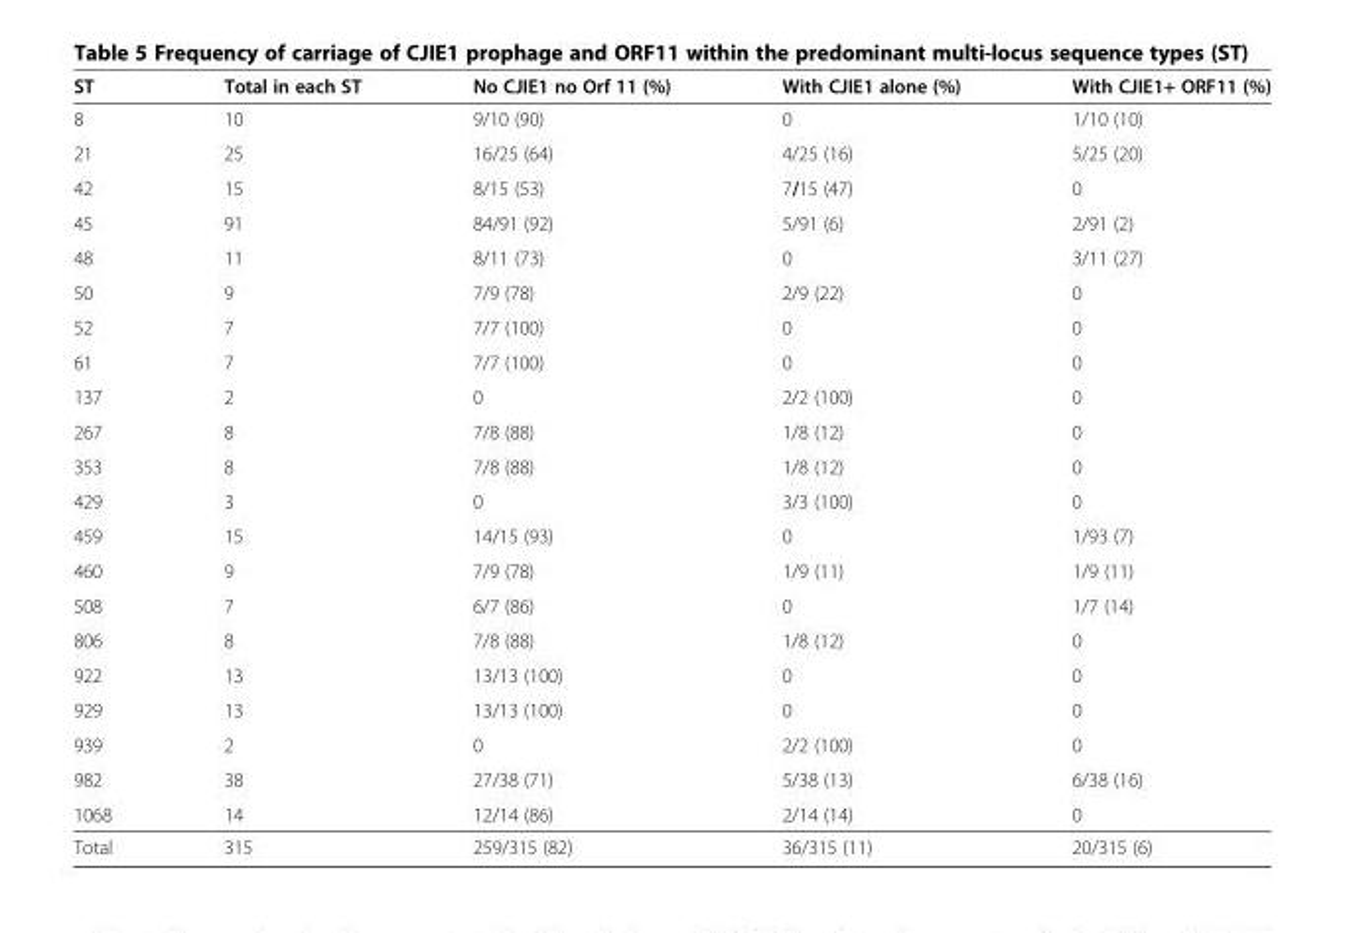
<table><thead><tr><td>ST</td><td>Total in each ST</td><td>No CJIE1 no Orf 11 (%)</td><td>With CJIE1 alone (%)</td><td>With CJIE1+ ORF11 (%)</td></tr></thead><tbody><tr><td>8</td><td>10</td><td>9/10 (90)</td><td>0</td><td>1/10 (10)</td></tr><tr><td>21</td><td>25</td><td>16/25 (64)</td><td>4/25 (16)</td><td>5/25 (20)</td></tr><tr><td>42</td><td>15</td><td>8/15 (53)</td><td>7/15 (47)</td><td>0</td></tr><tr><td>45</td><td>91</td><td>84/91 (92)</td><td>5/91 (6)</td><td>2/91 (2)</td></tr><tr><td>48</td><td>11</td><td>8/11 (73)</td><td>0</td><td>3/11 (27)</td></tr><tr><td>50</td><td>9</td><td>7/9 (78)</td><td>2/9 (22)</td><td>0</td></tr><tr><td>52</td><td>7</td><td>7/7 (100)</td><td>0</td><td>0</td></tr><tr><td>61</td><td>7</td><td>7/7 (100)</td><td>0</td><td>0</td></tr><tr><td>137</td><td>2</td><td>0</td><td>2/2 (100)</td><td>0</td></tr><tr><td>267</td><td>8</td><td>7/8 (88)</td><td>1/8 (12)</td><td>0</td></tr><tr><td>353</td><td>8</td><td>7/8 (88)</td><td>1/8 (12)</td><td>0</td></tr><tr><td>429</td><td>3</td><td>0</td><td>3/3 (100)</td><td>0</td></tr><tr><td>459</td><td>15</td><td>14/15 (93)</td><td>0</td><td>1/93 (7)</td></tr><tr><td>460</td><td>9</td><td>7/9 (78)</td><td>1/9 (11)</td><td>1/9 (11)</td></tr><tr><td>508</td><td>7</td><td>6/7 (86)</td><td>0</td><td>1/7 (14)</td></tr><tr><td>806</td><td>8</td><td>7/8 (88)</td><td>1/8 (12)</td><td>0</td></tr><tr><td>922</td><td>13</td><td>13/13 (100)</td><td>0</td><td>0</td></tr><tr><td>929</td><td>13</td><td>13/13 (100)</td><td>0</td><td>0</td></tr><tr><td>939</td><td>2</td><td>0</td><td>2/2 (100)</td><td>0</td></tr><tr><td>982</td><td>38</td><td>27/38 (71)</td><td>5/38 (13)</td><td>6/38 (16)</td></tr><tr><td>1068</td><td>14</td><td>12/14 (86)</td><td>2/14 (14)</td><td>0</td></tr><tr><td>Total</td><td>315</td><td>259/315 (82)</td><td>36/315 (11)</td><td>20/315 (6)</td></tr></tbody></table>